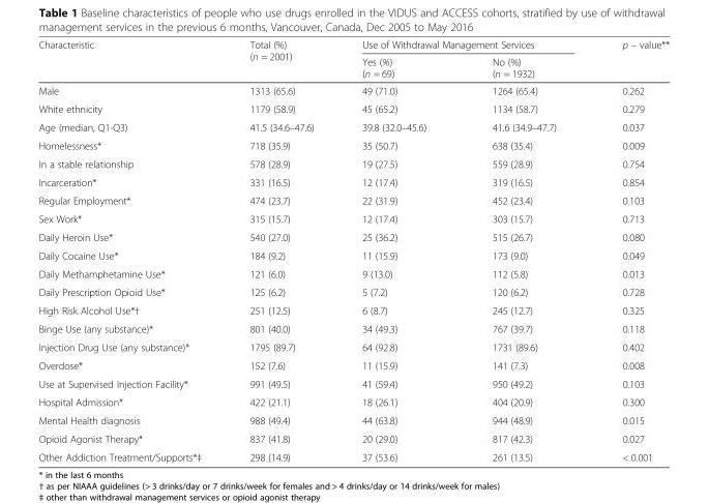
<table><thead><tr><td rowspan="2">Characteristic</td><td rowspan="2">Total (%) (n = 2001)</td><td colspan="2">Use of Withdrawal Management Services</td><td rowspan="2">p – value**</td></tr><tr><td>Yes (%) (n = 69)</td><td>No (%) (n = 1932)</td></tr></thead><tbody><tr><td>Male</td><td>1313 (65.6)</td><td>49 (71.0)</td><td>1264 (65.4)</td><td>0.262</td></tr><tr><td>White ethnicity</td><td>1179 (58.9)</td><td>45 (65.2)</td><td>1134 (58.7)</td><td>0.279</td></tr><tr><td>Age (median, Q1-Q3)</td><td>41.5 (34.6–47.6)</td><td>39.8 (32.0–45.6)</td><td>41.6 (34.9–47.7)</td><td>0.037</td></tr><tr><td>Homelessness*</td><td>718 (35.9)</td><td>35 (50.7)</td><td>638 (35.4)</td><td>0.009</td></tr><tr><td>In a stable relationship</td><td>578 (28.9)</td><td>19 (27.5)</td><td>559 (28.9)</td><td>0.754</td></tr><tr><td>Incarceration*</td><td>331 (16.5)</td><td>12 (17.4)</td><td>319 (16.5)</td><td>0.854</td></tr><tr><td>Regular Employment*</td><td>474 (23.7)</td><td>22 (31.9)</td><td>452 (23.4)</td><td>0.103</td></tr><tr><td>Sex Work*</td><td>315 (15.7)</td><td>12 (17.4)</td><td>303 (15.7)</td><td>0.713</td></tr><tr><td>Daily Heroin Use*</td><td>540 (27.0)</td><td>25 (36.2)</td><td>515 (26.7)</td><td>0.080</td></tr><tr><td>Daily Cocaine Use*</td><td>184 (9.2)</td><td>11 (15.9)</td><td>173 (9.0)</td><td>0.049</td></tr><tr><td>Daily Methamphetamine Use*</td><td>121 (6.0)</td><td>9 (13.0)</td><td>112 (5.8)</td><td>0.013</td></tr><tr><td>Daily Prescription Opioid Use*</td><td>125 (6.2)</td><td>5 (7.2)</td><td>120 (6.2)</td><td>0.728</td></tr><tr><td>High Risk Alcohol Use*†</td><td>251 (12.5)</td><td>6 (8.7)</td><td>245 (12.7)</td><td>0.325</td></tr><tr><td>Binge Use (any substance)*</td><td>801 (40.0)</td><td>34 (49.3)</td><td>767 (39.7)</td><td>0.118</td></tr><tr><td>Injection Drug Use (any substance)*</td><td>1795 (89.7)</td><td>64 (92.8)</td><td>1731 (89.6)</td><td>0.402</td></tr><tr><td>Overdose*</td><td>152 (7.6)</td><td>11 (15.9)</td><td>141 (7.3)</td><td>0.008</td></tr><tr><td>Use at Supervised Injection Facility*</td><td>991 (49.5)</td><td>41 (59.4)</td><td>950 (49.2)</td><td>0.103</td></tr><tr><td>Hospital Admission*</td><td>422 (21.1)</td><td>18 (26.1)</td><td>404 (20.9)</td><td>0.300</td></tr><tr><td>Mental Health diagnosis</td><td>988 (49.4)</td><td>44 (63.8)</td><td>944 (48.9)</td><td>0.015</td></tr><tr><td>Opioid Agonist Therapy*</td><td>837 (41.8)</td><td>20 (29.0)</td><td>817 (42.3)</td><td>0.027</td></tr><tr><td>Other Addiction Treatment/Supports*‡</td><td>298 (14.9)</td><td>37 (53.6)</td><td>261 (13.5)</td><td>&lt; 0.001</td></tr></tbody></table>